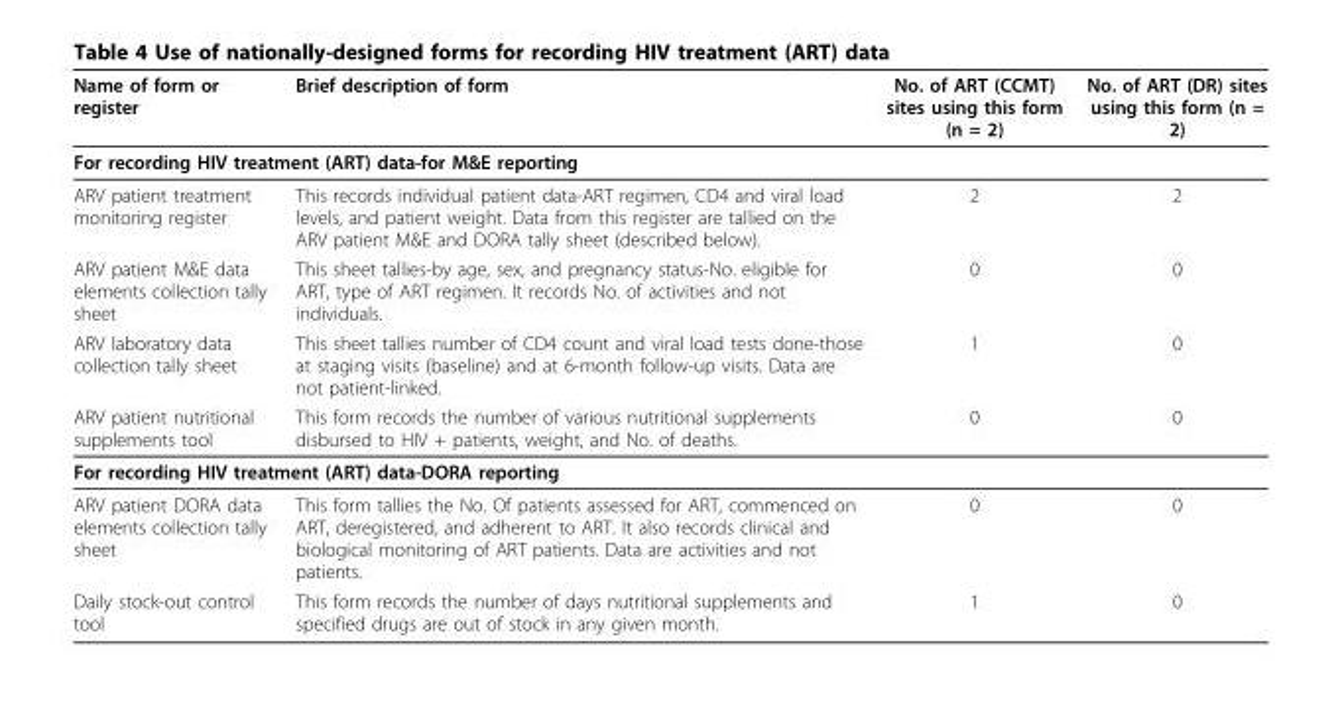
<table><thead><tr><td>Name of form or register</td><td>Brief description of form</td><td>No. of ART (CCMT) sites using this form (n = 2)</td><td>No. of ART (DR) sites using this form (n = 2)</td></tr></thead><tbody><tr><td colspan="4">For recording HIV treatment (ART) data-for M&amp;E reporting</td></tr><tr><td>ARV patient treatment monitoring register</td><td>This records individual patient data-ART regimen, CD4 and viral load levels, and patient weight. Data from this register are tallied on the ARV patient M&amp;E and DORA tally sheet (described below).</td><td>2</td><td>2</td></tr><tr><td>ARV patient M&amp;E data elements collection tally sheet</td><td>This sheet tallies-by age, sex, and pregnancy status-No. eligible for ART, type of ART regimen. It records No. of activities and not individuals.</td><td>0</td><td>0</td></tr><tr><td>ARV laboratory data collection tally sheet</td><td>This sheet tallies number of CD4 count and viral load tests done-those at staging visits (baseline) and at 6-month follow-up visits. Data are not patient-linked.</td><td>1</td><td>0</td></tr><tr><td>ARV patient nutritional supplements tool</td><td>This form records the number of various nutritional supplements disbursed to HIV + patients, weight, and No. of deaths.</td><td>0</td><td>0</td></tr><tr><td colspan="4">For recording HIV treatment (ART) data-DORA reporting</td></tr><tr><td>ARV patient DORA data elements collection tally sheet</td><td>This form tallies the No. Of patients assessed for ART, commenced on ART, deregistered, and adherent to ART. It also records clinical and biological monitoring of ART patients. Data are activities and not patients.</td><td>0</td><td>0</td></tr><tr><td>Daily stock-out control tool</td><td>This form records the number of days nutritional supplements and specified drugs are out of stock in any given month.</td><td>1</td><td>0</td></tr></tbody></table>